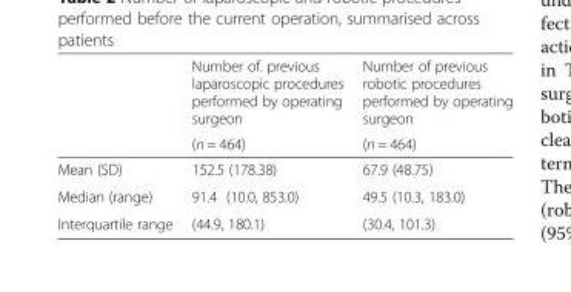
<table><thead><tr><td rowspan="2"></td><td rowspan="2">Number of. previous laparoscopic procedures performed by operating surgeon (n = 464)</td><td rowspan="2">Number of previous robotic procedures performed by operating surgeon (n = 464)</td></tr><tr></tr></thead><tbody><tr><td>Mean (SD)</td><td>152.5 (178.38)</td><td>67.9 (48.75)</td></tr><tr><td>Median (range)</td><td>91.4 (10.0, 853.0)</td><td>49.5 (10.3, 183.0)</td></tr><tr><td>Interquartile range</td><td>(44.9, 180.1)</td><td>(30.4, 101.3)</td></tr></tbody></table>